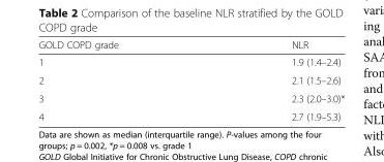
<table><thead><tr><td>GOLD COPD grade</td><td>NLR</td></tr></thead><tbody><tr><td>1</td><td>1.9 (1.4–2.4)</td></tr><tr><td>2</td><td>2.1 (1.5–2.6)</td></tr><tr><td>3</td><td>2.3 (2.0–3.0)*</td></tr><tr><td>4</td><td>2.7 (1.9–5.3)</td></tr></tbody></table>